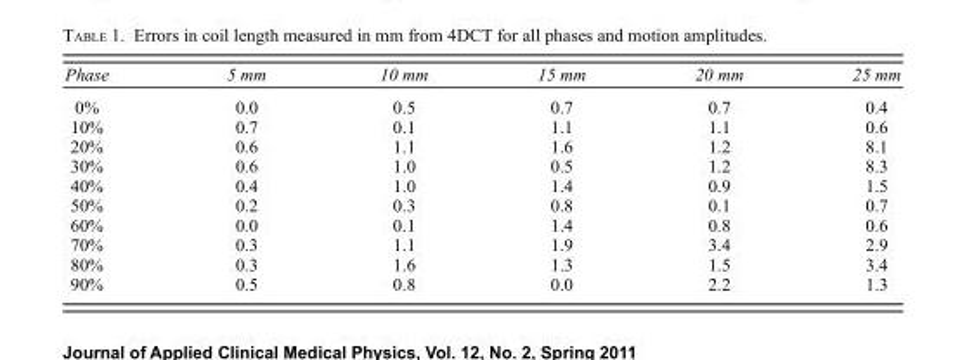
<table><thead><tr><td>Phase</td><td>5 mm</td><td>10 mm</td><td>15 mm</td><td>20 mm</td><td>25 mm</td></tr></thead><tbody><tr><td>0%</td><td>0.0</td><td>0.5</td><td>0.7</td><td>0.7</td><td>0.4</td></tr><tr><td>10%</td><td>0.7</td><td>0.1</td><td>1.1</td><td>1.1</td><td>0.6</td></tr><tr><td>20%</td><td>0.6</td><td>1.1</td><td>1.6</td><td>1.2</td><td>8.1</td></tr><tr><td>30%</td><td>0.6</td><td>1.0</td><td>0.5</td><td>1.2</td><td>8.3</td></tr><tr><td>40%</td><td>0.4</td><td>1.0</td><td>1.4</td><td>0.9</td><td>1.5</td></tr><tr><td>50%</td><td>0.2</td><td>0.3</td><td>0.8</td><td>0.1</td><td>0.7</td></tr><tr><td>60%</td><td>0.0</td><td>0.1</td><td>1.4</td><td>0.8</td><td>0.6</td></tr><tr><td>70%</td><td>0.3</td><td>1.1</td><td>1.9</td><td>3.4</td><td>2.9</td></tr><tr><td>80%</td><td>0.3</td><td>1.6</td><td>1.3</td><td>1.5</td><td>3.4</td></tr><tr><td>90%</td><td>0.5</td><td>0.8</td><td>0.0</td><td>2.2</td><td>1.3</td></tr></tbody></table>